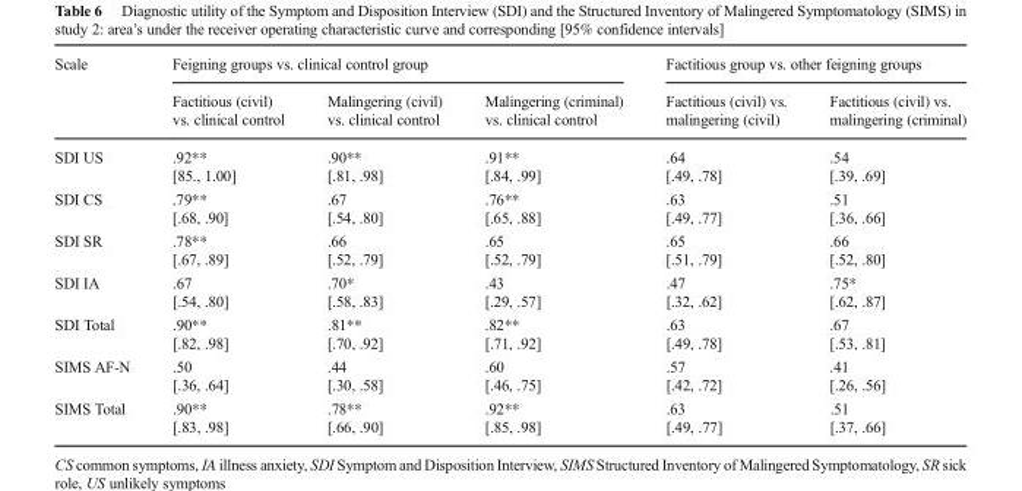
<table><thead><tr><td rowspan="2">Scale</td><td colspan="3">Feigning groups vs. clinical control group</td><td colspan="2">Factitious group vs. other feigning groups</td></tr><tr><td>Factitious (civil) vs. clinical control</td><td>Malingering (civil) vs. clinical control</td><td>Malingering (criminal) vs. clinical control</td><td>Factitious (civil) vs. malingering (civil)</td><td>Factitious (civil) vs. malingering (criminal)</td></tr></thead><tbody><tr><td>SDI US</td><td>.92** [85., 1.00]</td><td>.90** [.81, .98]</td><td>.91** [.84, .99]</td><td>.64 [.49, .78]</td><td>.54 [.39, .69]</td></tr><tr><td>SDI CS</td><td>.79** [.68, .90]</td><td>.67 [.54, .80]</td><td>.76** [.65, .88]</td><td>.63 [.49, .77]</td><td>.51 [.36, .66]</td></tr><tr><td>SDI SR</td><td>.78** [.67, .89]</td><td>.66 [.52, .79]</td><td>.65 [.52, .79]</td><td>.65 [.51, .79]</td><td>.66 [.52, .80]</td></tr><tr><td>SDI IA</td><td>.67 [.54, .80]</td><td>.70* [.58, .83]</td><td>.43 [.29, .57]</td><td>.47 [.32, .62]</td><td>.75* [.62, .87]</td></tr><tr><td>SDI Total</td><td>.90** [.82, .98]</td><td>.81** [.70, .92]</td><td>.82** [.71, .92]</td><td>.63 [.49, .78]</td><td>.67 [.53, .81]</td></tr><tr><td>SIMS AF-N</td><td>.50 [.36, .64]</td><td>.44 [.30, .58]</td><td>.60 [.46, .75]</td><td>.57 [.42, .72]</td><td>.41 [.26, .56]</td></tr><tr><td>SIMS Total</td><td>.90** [.83, .98]</td><td>.78** [.66, .90]</td><td>.92** [.85, .98]</td><td>.63 [.49, .77]</td><td>.51 [.37, .66]</td></tr></tbody></table>